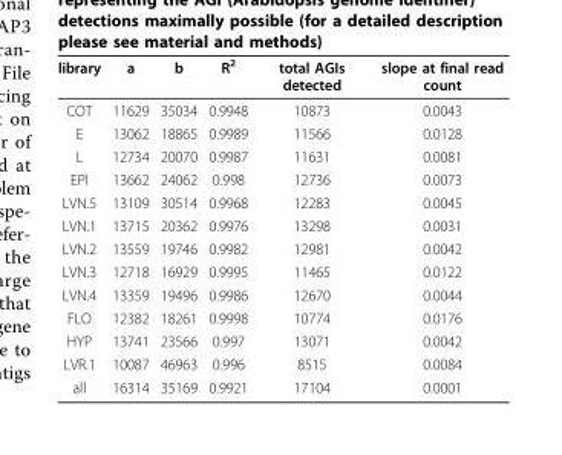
<table><thead><tr><td>library</td><td>a</td><td>b</td><td>R<sup>2</sup></td><td>total AGIs detected</td><td>slope at final read count</td></tr></thead><tbody><tr><td>COT</td><td>11629</td><td>35034</td><td>0.9948</td><td>10873</td><td>0.0043</td></tr><tr><td>E</td><td>13062</td><td>18865</td><td>0.9989</td><td>11566</td><td>0.0128</td></tr><tr><td>L</td><td>12734</td><td>20070</td><td>0.9987</td><td>11631</td><td>0.0081</td></tr><tr><td>EPI</td><td>13662</td><td>24062</td><td>0.998</td><td>12736</td><td>0.0073</td></tr><tr><td>LVN.5</td><td>13109</td><td>30514</td><td>0.9968</td><td>12283</td><td>0.0045</td></tr><tr><td>LVN.1</td><td>13715</td><td>20362</td><td>0.9976</td><td>13298</td><td>0.0031</td></tr><tr><td>LVN.2</td><td>13559</td><td>19746</td><td>0.9982</td><td>12981</td><td>0.0042</td></tr><tr><td>LVN.3</td><td>12718</td><td>16929</td><td>0.9995</td><td>11465</td><td>0.0122</td></tr><tr><td>LVN.4</td><td>13359</td><td>19496</td><td>0.9986</td><td>12670</td><td>0.0044</td></tr><tr><td>FLO</td><td>12382</td><td>18261</td><td>0.9998</td><td>10774</td><td>0.0176</td></tr><tr><td>HYP</td><td>13741</td><td>23566</td><td>0.997</td><td>13071</td><td>0.0042</td></tr><tr><td>LVR.1</td><td>10087</td><td>46963</td><td>0.996</td><td>8515</td><td>0.0084</td></tr><tr><td>all</td><td>16314</td><td>35169</td><td>0.9921</td><td>17104</td><td>0.0001</td></tr></tbody></table>